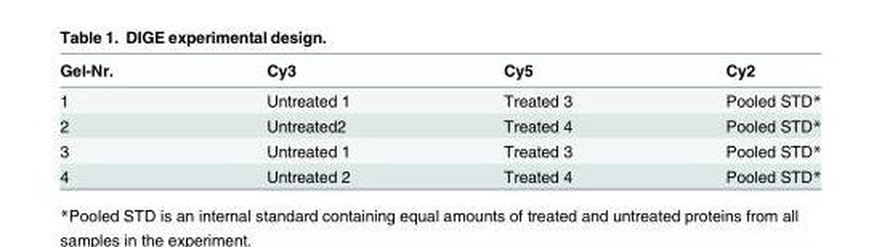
<table><thead><tr><td>Gel-Nr.</td><td>Cy3</td><td>Cy5</td><td>Cy2</td></tr></thead><tbody><tr><td>1</td><td>Untreated 1</td><td>Treated 3</td><td>Pooled STD*</td></tr><tr><td>2</td><td>Untreated2</td><td>Treated 4</td><td>Pooled STD*</td></tr><tr><td>3</td><td>Untreated 1</td><td>Treated 3</td><td>Pooled STD*</td></tr><tr><td>4</td><td>Untreated 2</td><td>Treated 4</td><td>Pooled STD*</td></tr></tbody></table>